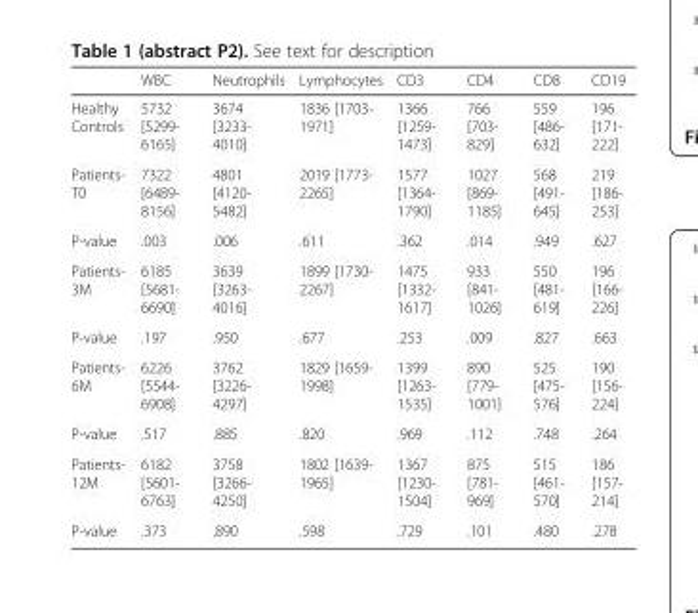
<table><thead><tr><td></td><td>WBC</td><td>Neutrophils</td><td>Lymphocytes</td><td>CD3</td><td>CD4</td><td>CD8</td><td>CD19</td></tr></thead><tbody><tr><td>Healthy Controls</td><td>5732 [5299- 6165]</td><td>3674 [3233- 4010]</td><td>1836 [1703- 1971]</td><td>1366 [1259- 1473]</td><td>766 [703- 829]</td><td>559 [486- 632]</td><td>196 [171- 222]</td></tr><tr><td>Patients- T0</td><td>7322 [6489- 8156]</td><td>4801 [4120- 5482]</td><td>2019 [1773- 2265]</td><td>1577 [1364- 1790]</td><td>1027 [869- 1185]</td><td>568 [491- 645]</td><td>219 [186- 253]</td></tr><tr><td>P-value</td><td>.003</td><td>.006</td><td>.611</td><td>.362</td><td>.014</td><td>.949</td><td>.627</td></tr><tr><td>Patients- 3M</td><td>6185 [5681- 6690]</td><td>3639 [3263- 4016]</td><td>1899 [1730- 2267]</td><td>1475 [1332- 1617]</td><td>933 [841- 1026]</td><td>550 [481- 619]</td><td>196 [166- 226]</td></tr><tr><td>P-value</td><td>.197</td><td>.950</td><td>.677</td><td>.253</td><td>.009</td><td>.827</td><td>.663</td></tr><tr><td>Patients- 6M</td><td>6226 [5544- 6908]</td><td>3762 [3226- 4297]</td><td>1829 [1659- 1998]</td><td>1399 [1263- 1535]</td><td>890 [779- 1001]</td><td>525 [475- 576]</td><td>190 [156- 224]</td></tr><tr><td>P-value</td><td>.517</td><td>.885</td><td>.820</td><td>.969</td><td>.112</td><td>.748</td><td>.264</td></tr><tr><td>Patients- 12M</td><td>6182 [5601- 6763]</td><td>3758 [3266- 4250]</td><td>1802 [1639- 1965]</td><td>1367 [1230- 1504]</td><td>875 [781- 969]</td><td>515 [461- 570]</td><td>186 [157- 214]</td></tr><tr><td>P-value</td><td>.373</td><td>.890</td><td>.598</td><td>.729</td><td>.101</td><td>.480</td><td>.278</td></tr></tbody></table>